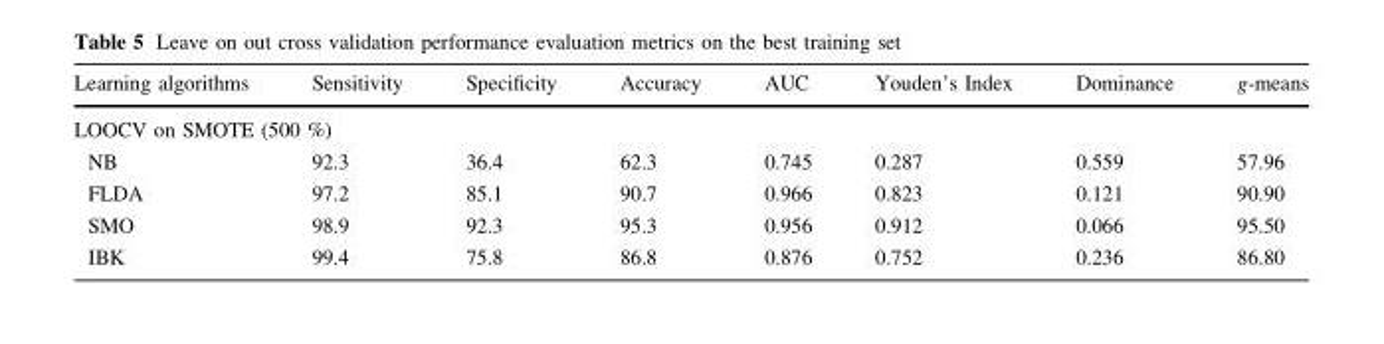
<table><thead><tr><td>Learning algorithms</td><td>Sensitivity</td><td>Specificity</td><td>Accuracy</td><td>AUC</td><td>Youden’s Index</td><td>Dominance</td><td>g-means</td></tr></thead><tbody><tr><td colspan="8">LOOCV on SMOTE (500 %)</td></tr><tr><td>NB</td><td>92.3</td><td>36.4</td><td>62.3</td><td>0.745</td><td>0.287</td><td>0.559</td><td>57.96</td></tr><tr><td>FLDA</td><td>97.2</td><td>85.1</td><td>90.7</td><td>0.966</td><td>0.823</td><td>0.121</td><td>90.90</td></tr><tr><td>SMO</td><td>98.9</td><td>92.3</td><td>95.3</td><td>0.956</td><td>0.912</td><td>0.066</td><td>95.50</td></tr><tr><td>IBK</td><td>99.4</td><td>75.8</td><td>86.8</td><td>0.876</td><td>0.752</td><td>0.236</td><td>86.80</td></tr></tbody></table>